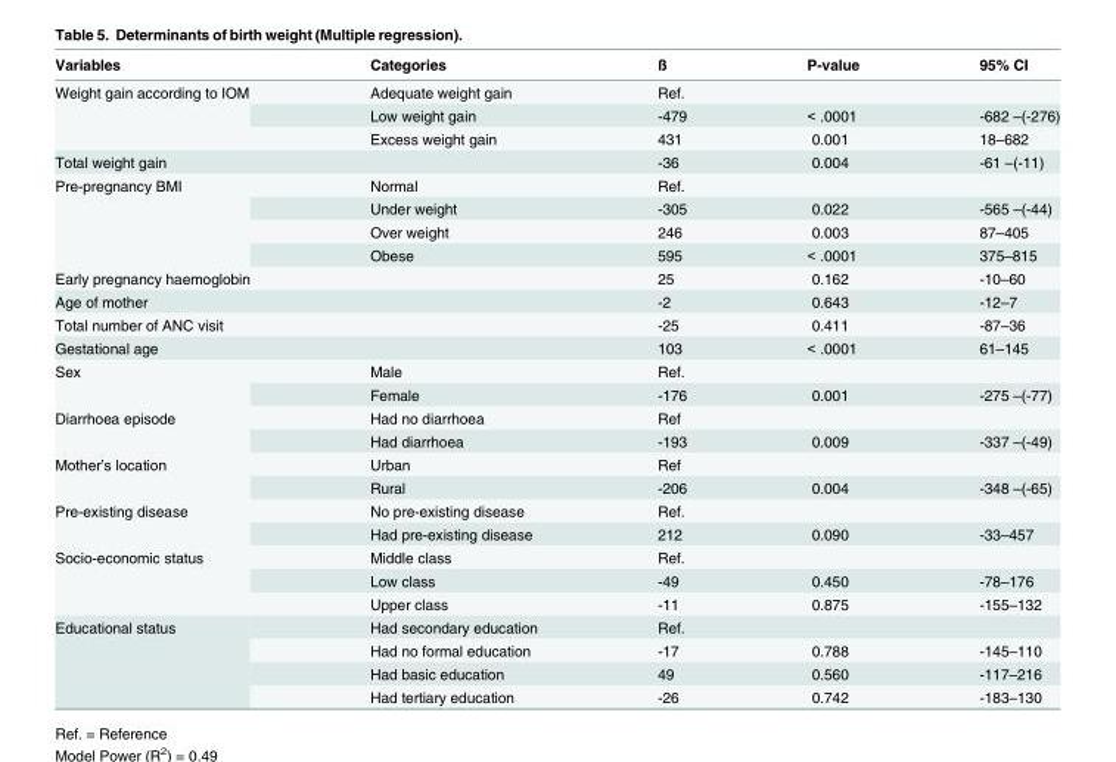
<table><thead><tr><td>Variables</td><td>Categories</td><td>ß</td><td>P-value</td><td>95% CI</td></tr></thead><tbody><tr><td rowspan="3">Weight gain according to IOM</td><td>Adequate weight gain</td><td>Ref.</td><td></td><td></td></tr><tr><td>Low weight gain</td><td>-479</td><td>&lt; .0001</td><td>-682 –(-276)</td></tr><tr><td>Excess weight gain</td><td>431</td><td>0.001</td><td>18–682</td></tr><tr><td>Total weight gain</td><td></td><td>-36</td><td>0.004</td><td>-61 –(-11)</td></tr><tr><td rowspan="4">Pre-pregnancy BMI</td><td>Normal</td><td>Ref.</td><td></td><td></td></tr><tr><td>Under weight</td><td>-305</td><td>0.022</td><td>-565 –(-44)</td></tr><tr><td>Over weight</td><td>246</td><td>0.003</td><td>87–405</td></tr><tr><td>Obese</td><td>595</td><td>&lt; .0001</td><td>375–815</td></tr><tr><td>Early pregnancy haemoglobin</td><td></td><td>25</td><td>0.162</td><td>-10–60</td></tr><tr><td>Age of mother</td><td></td><td>-2</td><td>0.643</td><td>-12–7</td></tr><tr><td>Total number of ANC visit</td><td></td><td>-25</td><td>0.411</td><td>-87–36</td></tr><tr><td>Gestational age</td><td></td><td>103</td><td>&lt; .0001</td><td>61–145</td></tr><tr><td rowspan="2">Sex</td><td>Male</td><td>Ref.</td><td></td><td></td></tr><tr><td>Female</td><td>-176</td><td>0.001</td><td>-275 –(-77)</td></tr><tr><td rowspan="2">Diarrhoea episode</td><td>Had no diarrhoea</td><td>Ref</td><td></td><td></td></tr><tr><td>Had diarrhoea</td><td>-193</td><td>0.009</td><td>-337 –(-49)</td></tr><tr><td rowspan="2">Mother’s location</td><td>Urban</td><td>Ref</td><td></td><td></td></tr><tr><td>Rural</td><td>-206</td><td>0.004</td><td>-348 –(-65)</td></tr><tr><td rowspan="2">Pre-existing disease</td><td>No pre-existing disease</td><td>Ref.</td><td></td><td></td></tr><tr><td>Had pre-existing disease</td><td>212</td><td>0.090</td><td>-33–457</td></tr><tr><td rowspan="3">Socio-economic status</td><td>Middle class</td><td>Ref.</td><td></td><td></td></tr><tr><td>Low class</td><td>-49</td><td>0.450</td><td>-78–176</td></tr><tr><td>Upper class</td><td>-11</td><td>0.875</td><td>-155–132</td></tr><tr><td rowspan="4">Educational status</td><td>Had secondary education</td><td>Ref.</td><td></td><td></td></tr><tr><td>Had no formal education</td><td>-17</td><td>0.788</td><td>-145–110</td></tr><tr><td>Had basic education</td><td>49</td><td>0.560</td><td>-117–216</td></tr><tr><td>Had tertiary education</td><td>-26</td><td>0.742</td><td>-183–130</td></tr></tbody></table>